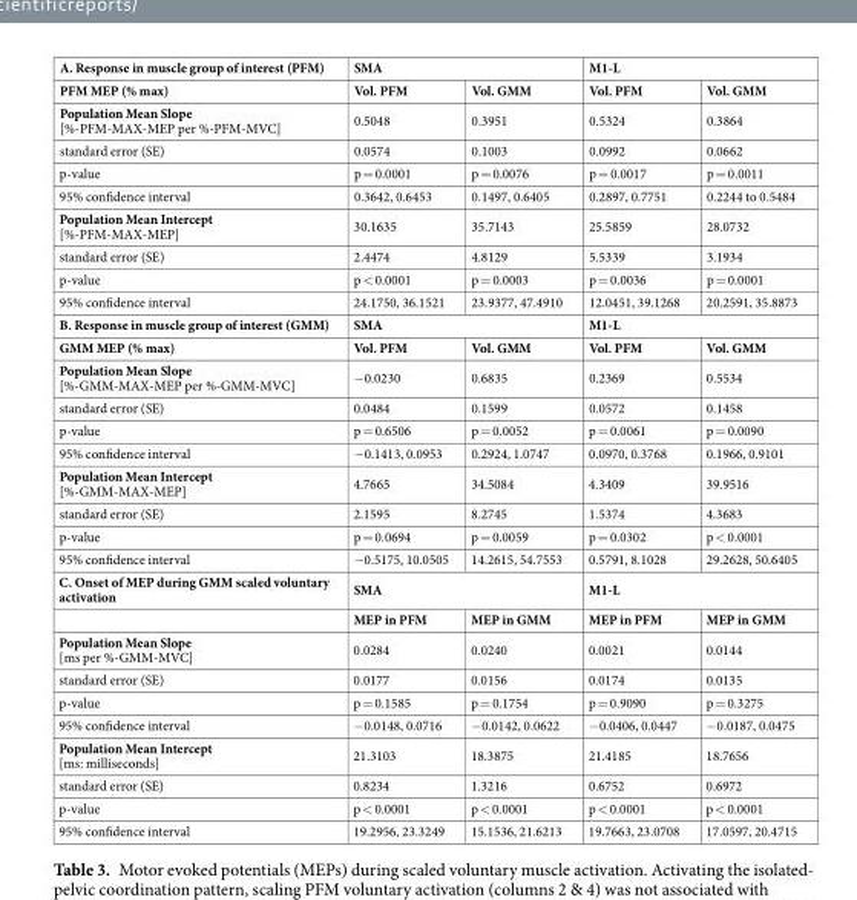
<table><tbody><tr><td>A. Response in muscle group of interest (PFM)</td><td colspan="2">SMA</td><td colspan="2">M1-L</td></tr><tr><td>PFM MEP (% max)</td><td>Vol. PFM</td><td>Vol. GMM</td><td>Vol. PFM</td><td>Vol. GMM</td></tr><tr><td>Population Mean Slope [%-PFM-MAX-MEP per %-PFM-MVC]</td><td>0.5048</td><td>0.3951</td><td>0.5324</td><td>0.3864</td></tr><tr><td>standard error (SE)</td><td>0.0574</td><td>0.1003</td><td>0.0992</td><td>0.0662</td></tr><tr><td>p-value</td><td>p = 0.0001</td><td>p = 0.0076</td><td>p = 0.0017</td><td>p = 0.0011</td></tr><tr><td>95% confidence interval</td><td>0.3642, 0.6453</td><td>0.1497, 0.6405</td><td>0.2897, 0.7751</td><td>0.2244 to 0.5484</td></tr><tr><td>Population Mean Intercept [%-PFM-MAX-MEP]</td><td>30.1635</td><td>35.7143</td><td>25.5859</td><td>28.0732</td></tr><tr><td>standard error (SE)</td><td>2.4474</td><td>4.8129</td><td>5.5339</td><td>3.1934</td></tr><tr><td>p-value</td><td>p &lt; 0.0001</td><td>p = 0.0003</td><td>p = 0.0036</td><td>p = 0.0001</td></tr><tr><td>95% confidence interval</td><td>24.1750, 36.1521</td><td>23.9377, 47.4910</td><td>12.0451, 39.1268</td><td>20.2591, 35.8873</td></tr><tr><td>B. Response in muscle group of interest (GMM)</td><td colspan="2">SMA</td><td colspan="2">M1-L</td></tr><tr><td>GMM MEP (% max)</td><td>Vol. PFM</td><td>Vol. GMM</td><td>Vol. PFM</td><td>Vol. GMM</td></tr><tr><td>Population Mean Slope [%-GMM-MAX-MEP per %-GMM-MVC]</td><td>−0.0230</td><td>0.6835</td><td>0.2369</td><td>0.5534</td></tr><tr><td>standard error (SE)</td><td>0.0484</td><td>0.1599</td><td>0.0572</td><td>0.1458</td></tr><tr><td>p-value</td><td>p = 0.6506</td><td>p = 0.0052</td><td>p = 0.0061</td><td>p = 0.0090</td></tr><tr><td>95% confidence interval</td><td>−0.1413, 0.0953</td><td>0.2924, 1.0747</td><td>0.0970, 0.3768</td><td>0.1966, 0.9101</td></tr><tr><td>Population Mean Intercept [%-GMM-MAX-MEP]</td><td>4.7665</td><td>34.5084</td><td>4.3409</td><td>39.9516</td></tr><tr><td>standard error (SE)</td><td>2.1595</td><td>8.2745</td><td>1.5374</td><td>4.3683</td></tr><tr><td>p-value</td><td>p = 0.0694</td><td>p = 0.0059</td><td>p = 0.0302</td><td>p &lt; 0.0001</td></tr><tr><td>95% confidence interval</td><td>−0.5175, 10.0505</td><td>14.2615, 54.7553</td><td>0.5791, 8.1028</td><td>29.2628, 50.6405</td></tr><tr><td rowspan="2">C. Onset of MEP during GMM scaled voluntary activation</td><td colspan="2">SMA</td><td colspan="2">M1-L</td></tr><tr><td>MEP in PFM</td><td>MEP in GMM</td><td>MEP in PFM</td><td>MEP in GMM</td></tr><tr><td>Population Mean Slope [ms per %-GMM-MVC]</td><td>0.0284</td><td>0.0240</td><td>0.0021</td><td>0.0144</td></tr><tr><td>standard error (SE)</td><td>0.0177</td><td>0.0156</td><td>0.0174</td><td>0.0135</td></tr><tr><td>p-value</td><td>p = 0.1585</td><td>p = 0.1754</td><td>p = 0.9090</td><td>p = 0.3275</td></tr><tr><td>95% confidence interval</td><td>−0.0148, 0.0716</td><td>−0.0142, 0.0622</td><td>−0.0406, 0.0447</td><td>−0.0187, 0.0475</td></tr><tr><td>Population Mean Intercept [ms: milliseconds]</td><td>21.3103</td><td>18.3875</td><td>21.4185</td><td>18.7656</td></tr><tr><td>standard error (SE)</td><td>0.8234</td><td>1.3216</td><td>0.6752</td><td>0.6972</td></tr><tr><td>p-value</td><td>p &lt; 0.0001</td><td>p &lt; 0.0001</td><td>p &lt; 0.0001</td><td>p &lt; 0.0001</td></tr><tr><td>95% confidence interval</td><td>19.2956, 23.3249</td><td>15.1536, 21.6213</td><td>19.7663, 23.0708</td><td>17.0597, 20.4715</td></tr></tbody></table>